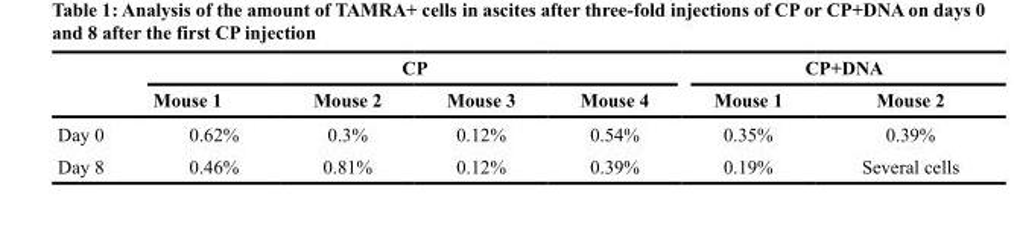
<table><thead><tr><td rowspan="2"></td><td colspan="4">CP</td><td colspan="2">CP+DNA</td></tr><tr><td>Mouse 1</td><td>Mouse 2</td><td>Mouse 3</td><td>Mouse 4</td><td>Mouse 1</td><td>Mouse 2</td></tr></thead><tbody><tr><td>Day 0</td><td>0.62%</td><td>0.3%</td><td>0.12%</td><td>0.54%</td><td>0.35%</td><td>0.39%</td></tr><tr><td>Day 8</td><td>0.46%</td><td>0.81%</td><td>0.12%</td><td>0.39%</td><td>0.19%</td><td>Several cells</td></tr></tbody></table>